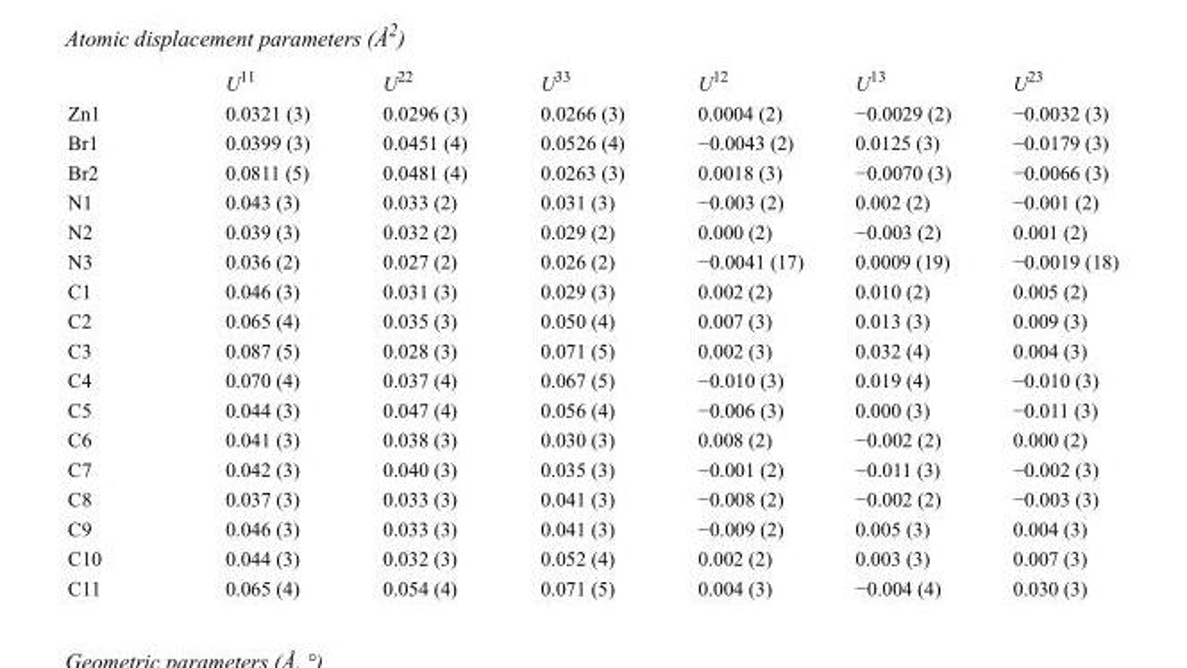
<table><thead><tr><td></td><td>U<sup>11</sup></td><td>U<sup>22</sup></td><td>U<sup>33</sup></td><td>U<sup>12</sup></td><td>U<sup>13</sup></td><td>U<sup>23</sup></td></tr></thead><tbody><tr><td>Zn1</td><td>0.0321 (3)</td><td>0.0296 (3)</td><td>0.0266 (3)</td><td>0.0004 (2)</td><td>−0.0029 (2)</td><td>−0.0032 (3)</td></tr><tr><td>Br1</td><td>0.0399 (3)</td><td>0.0451 (4)</td><td>0.0526 (4)</td><td>−0.0043 (2)</td><td>0.0125 (3)</td><td>−0.0179 (3)</td></tr><tr><td>Br2</td><td>0.0811 (5)</td><td>0.0481 (4)</td><td>0.0263 (3)</td><td>0.0018 (3)</td><td>−0.0070 (3)</td><td>−0.0066 (3)</td></tr><tr><td>N1</td><td>0.043 (3)</td><td>0.033 (2)</td><td>0.031 (3)</td><td>−0.003 (2)</td><td>0.002 (2)</td><td>−0.001 (2)</td></tr><tr><td>N2</td><td>0.039 (3)</td><td>0.032 (2)</td><td>0.029 (2)</td><td>0.000 (2)</td><td>−0.003 (2)</td><td>0.001 (2)</td></tr><tr><td>N3</td><td>0.036 (2)</td><td>0.027 (2)</td><td>0.026 (2)</td><td>−0.0041 (17)</td><td>0.0009 (19)</td><td>−0.0019 (18)</td></tr><tr><td>C1</td><td>0.046 (3)</td><td>0.031 (3)</td><td>0.029 (3)</td><td>0.002 (2)</td><td>0.010 (2)</td><td>0.005 (2)</td></tr><tr><td>C2</td><td>0.065 (4)</td><td>0.035 (3)</td><td>0.050 (4)</td><td>0.007 (3)</td><td>0.013 (3)</td><td>0.009 (3)</td></tr><tr><td>C3</td><td>0.087 (5)</td><td>0.028 (3)</td><td>0.071 (5)</td><td>0.002 (3)</td><td>0.032 (4)</td><td>0.004 (3)</td></tr><tr><td>C4</td><td>0.070 (4)</td><td>0.037 (4)</td><td>0.067 (5)</td><td>−0.010 (3)</td><td>0.019 (4)</td><td>−0.010 (3)</td></tr><tr><td>C5</td><td>0.044 (3)</td><td>0.047 (4)</td><td>0.056 (4)</td><td>−0.006 (3)</td><td>0.000 (3)</td><td>−0.011 (3)</td></tr><tr><td>C6</td><td>0.041 (3)</td><td>0.038 (3)</td><td>0.030 (3)</td><td>0.008 (2)</td><td>−0.002 (2)</td><td>0.000 (2)</td></tr><tr><td>C7</td><td>0.042 (3)</td><td>0.040 (3)</td><td>0.035 (3)</td><td>−0.001 (2)</td><td>−0.011 (3)</td><td>−0.002 (3)</td></tr><tr><td>C8</td><td>0.037 (3)</td><td>0.033 (3)</td><td>0.041 (3)</td><td>−0.008 (2)</td><td>−0.002 (2)</td><td>−0.003 (3)</td></tr><tr><td>C9</td><td>0.046 (3)</td><td>0.033 (3)</td><td>0.041 (3)</td><td>−0.009 (2)</td><td>0.005 (3)</td><td>0.004 (3)</td></tr><tr><td>C10</td><td>0.044 (3)</td><td>0.032 (3)</td><td>0.052 (4)</td><td>0.002 (2)</td><td>0.003 (3)</td><td>0.007 (3)</td></tr><tr><td>C11</td><td>0.065 (4)</td><td>0.054 (4)</td><td>0.071 (5)</td><td>0.004 (3)</td><td>−0.004 (4)</td><td>0.030 (3)</td></tr></tbody></table>